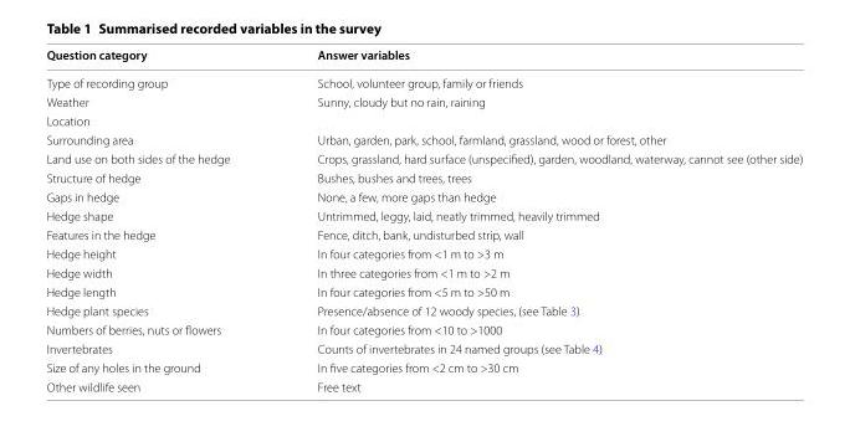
<table><thead><tr><td>Question category</td><td>Answer variables</td></tr></thead><tbody><tr><td>Type of recording group</td><td>School, volunteer group, family or friends</td></tr><tr><td>Weather</td><td>Sunny, cloudy but no rain, raining</td></tr><tr><td colspan="2">Location</td></tr><tr><td>Surrounding area</td><td>Urban, garden, park, school, farmland, grassland, wood or forest, other</td></tr><tr><td>Land use on both sides of the hedge</td><td>Crops, grassland, hard surface (unspecified), garden, woodland, waterway, cannot see (other side)</td></tr><tr><td>Structure of hedge</td><td>Bushes, bushes and trees, trees</td></tr><tr><td>Gaps in hedge</td><td>None, a few, more gaps than hedge</td></tr><tr><td>Hedge shape</td><td>Untrimmed, leggy, laid, neatly trimmed, heavily trimmed</td></tr><tr><td>Features in the hedge</td><td>Fence, ditch, bank, undisturbed strip, wall</td></tr><tr><td>Hedge height</td><td>In four categories from &lt;1 m to &gt;3 m</td></tr><tr><td>Hedge width</td><td>In three categories from &lt;1 m to &gt;2 m</td></tr><tr><td>Hedge length</td><td>In four categories from &lt;5 m to &gt;50 m</td></tr><tr><td>Hedge plant species</td><td>Presence/absence of 12 woody species, (see Table 3)</td></tr><tr><td>Numbers of berries, nuts or flowers</td><td>In four categories from &lt;10 to &gt;1000</td></tr><tr><td>Invertebrates</td><td>Counts of invertebrates in 24 named groups (see Table 4)</td></tr><tr><td>Size of any holes in the ground</td><td>In five categories from &lt;2 cm to &gt;30 cm</td></tr><tr><td>Other wildlife seen</td><td>Free text</td></tr></tbody></table>